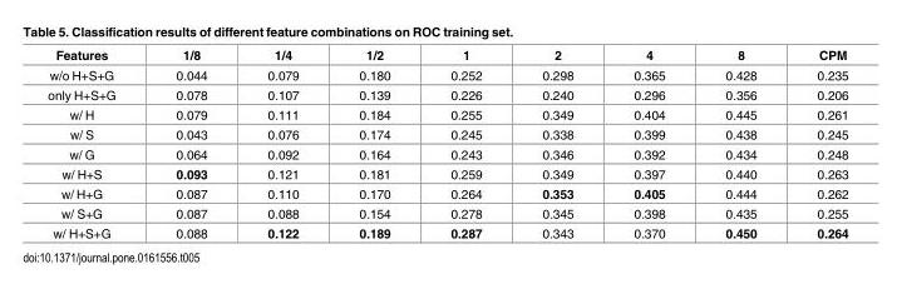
<table><thead><tr><td>Features</td><td>1/8</td><td>1/4</td><td>1/2</td><td>1</td><td>2</td><td>4</td><td>8</td><td>CPM</td></tr></thead><tbody><tr><td>w/o H+S+G</td><td>0.044</td><td>0.079</td><td>0.180</td><td>0.252</td><td>0.298</td><td>0.365</td><td>0.428</td><td>0.235</td></tr><tr><td>only H+S+G</td><td>0.078</td><td>0.107</td><td>0.139</td><td>0.226</td><td>0.240</td><td>0.296</td><td>0.356</td><td>0.206</td></tr><tr><td>w/ H</td><td>0.079</td><td>0.111</td><td>0.184</td><td>0.255</td><td>0.349</td><td>0.404</td><td>0.445</td><td>0.261</td></tr><tr><td>w/ S</td><td>0.043</td><td>0.076</td><td>0.174</td><td>0.245</td><td>0.338</td><td>0.399</td><td>0.438</td><td>0.245</td></tr><tr><td>w/ G</td><td>0.064</td><td>0.092</td><td>0.164</td><td>0.243</td><td>0.346</td><td>0.392</td><td>0.434</td><td>0.248</td></tr><tr><td>w/ H+S</td><td>0.093</td><td>0.121</td><td>0.181</td><td>0.259</td><td>0.349</td><td>0.397</td><td>0.440</td><td>0.263</td></tr><tr><td>w/ H+G</td><td>0.087</td><td>0.110</td><td>0.170</td><td>0.264</td><td>0.353</td><td>0.405</td><td>0.444</td><td>0.262</td></tr><tr><td>w/ S+G</td><td>0.087</td><td>0.088</td><td>0.154</td><td>0.278</td><td>0.345</td><td>0.398</td><td>0.435</td><td>0.255</td></tr><tr><td>w/ H+S+G</td><td>0.088</td><td>0.122</td><td>0.189</td><td>0.287</td><td>0.343</td><td>0.370</td><td>0.450</td><td>0.264</td></tr></tbody></table>